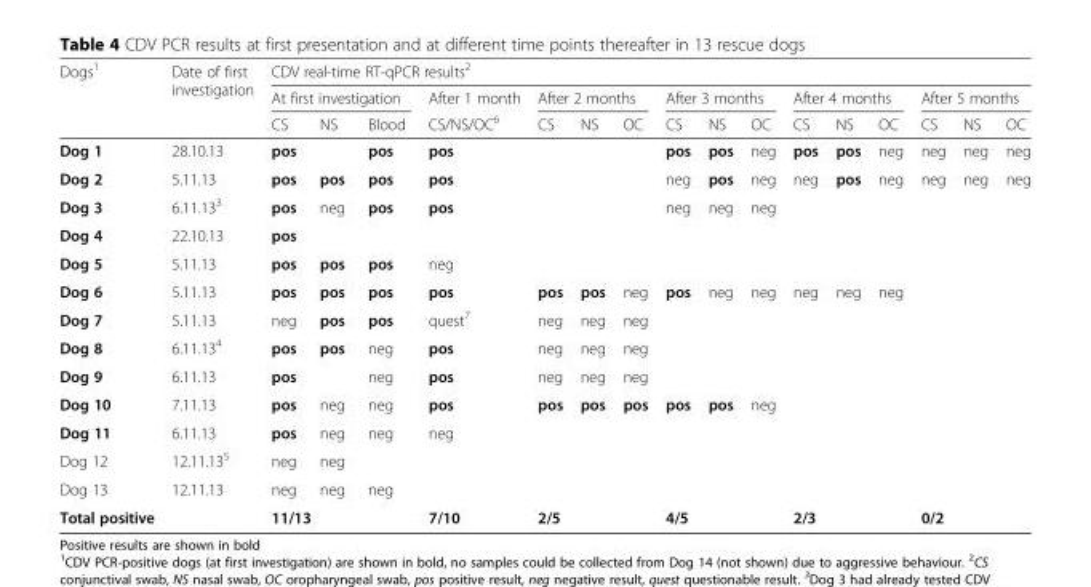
<table><thead><tr><td rowspan="3">Dogs<sup>1</sup></td><td rowspan="3">Date of first investigation</td><td colspan="16">CDV real-time RT-qPCR results<sup>2</sup></td></tr><tr><td colspan="3">At first investigation</td><td rowspan="2">After 1 month CS/NS/OC<sup>6</sup></td><td colspan="3">After 2 months</td><td colspan="3">After 3 months</td><td colspan="3">After 4 months</td><td colspan="3">After 5 months</td></tr><tr><td>CS</td><td>NS</td><td>Blood</td><td>CS</td><td>NS</td><td>OC</td><td>CS</td><td>NS</td><td>OC</td><td>CS</td><td>NS</td><td>OC</td><td>CS</td><td>NS</td><td>OC</td></tr></thead><tbody><tr><td>Dog 1</td><td>28.10.13</td><td>pos</td><td></td><td>pos</td><td>pos</td><td></td><td></td><td></td><td>pos</td><td>pos</td><td>neg</td><td>pos</td><td>pos</td><td>neg</td><td>neg</td><td>neg</td><td>neg</td></tr><tr><td>Dog 2</td><td>5.11.13</td><td>pos</td><td>pos</td><td>pos</td><td>pos</td><td></td><td></td><td></td><td>neg</td><td>pos</td><td>neg</td><td>neg</td><td>pos</td><td>neg</td><td>neg</td><td>neg</td><td>neg</td></tr><tr><td>Dog 3</td><td>6.11.13<sup>3</sup></td><td>pos</td><td>neg</td><td>pos</td><td>pos</td><td></td><td></td><td></td><td>neg</td><td>neg</td><td>neg</td><td></td><td></td><td></td><td></td><td></td><td></td></tr><tr><td>Dog 4</td><td>22.10.13</td><td>pos</td><td></td><td></td><td></td><td></td><td></td><td></td><td></td><td></td><td></td><td></td><td></td><td></td><td></td><td></td><td></td></tr><tr><td>Dog 5</td><td>5.11.13</td><td>pos</td><td>pos</td><td>pos</td><td>neg</td><td></td><td></td><td></td><td></td><td></td><td></td><td></td><td></td><td></td><td></td><td></td><td></td></tr><tr><td>Dog 6</td><td>5.11.13</td><td>pos</td><td>pos</td><td>pos</td><td>pos</td><td>pos</td><td>pos</td><td>neg</td><td>pos</td><td>neg</td><td>neg</td><td>neg</td><td>neg</td><td>neg</td><td></td><td></td><td></td></tr><tr><td>Dog 7</td><td>5.11.13</td><td>neg</td><td>pos</td><td>pos</td><td>quest<sup>7</sup></td><td>neg</td><td>neg</td><td>neg</td><td></td><td></td><td></td><td></td><td></td><td></td><td></td><td></td><td></td></tr><tr><td>Dog 8</td><td>6.11.13<sup>4</sup></td><td>pos</td><td>pos</td><td>neg</td><td>pos</td><td>neg</td><td>neg</td><td>neg</td><td></td><td></td><td></td><td></td><td></td><td></td><td></td><td></td><td></td></tr><tr><td>Dog 9</td><td>6.11.13</td><td>pos</td><td></td><td>neg</td><td>pos</td><td>neg</td><td>neg</td><td>neg</td><td></td><td></td><td></td><td></td><td></td><td></td><td></td><td></td><td></td></tr><tr><td>Dog 10</td><td>7.11.13</td><td>pos</td><td>neg</td><td>neg</td><td>pos</td><td>pos</td><td>pos</td><td>pos</td><td>pos</td><td>pos</td><td>neg</td><td></td><td></td><td></td><td></td><td></td><td></td></tr><tr><td>Dog 11</td><td>6.11.13</td><td>pos</td><td>neg</td><td>neg</td><td>neg</td><td></td><td></td><td></td><td></td><td></td><td></td><td></td><td></td><td></td><td></td><td></td><td></td></tr><tr><td>Dog 12</td><td>12.11.13<sup>5</sup></td><td>neg</td><td>neg</td><td></td><td></td><td></td><td></td><td></td><td></td><td></td><td></td><td></td><td></td><td></td><td></td><td></td><td></td></tr><tr><td>Dog 13</td><td>12.11.13</td><td>neg</td><td>neg</td><td>neg</td><td></td><td></td><td></td><td></td><td></td><td></td><td></td><td></td><td></td><td></td><td></td><td></td><td></td></tr><tr><td>Total positive</td><td></td><td colspan="3">11/13</td><td>7/10</td><td colspan="3">2/5</td><td colspan="3">4/5</td><td colspan="3">2/3</td><td colspan="3">0/2</td></tr></tbody></table>